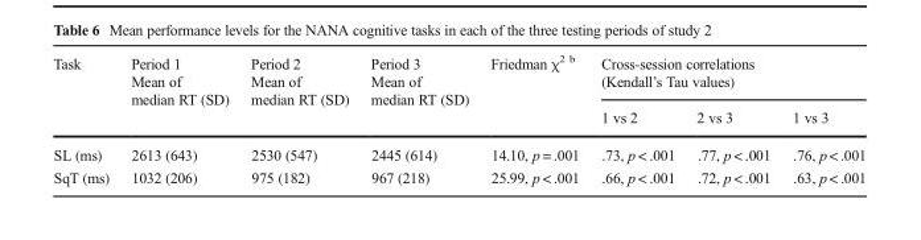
<table><thead><tr><td rowspan="3">Task</td><td rowspan="3">Period 1 Mean of median RT (SD)</td><td rowspan="3">Period 2 Mean of median RT (SD)</td><td rowspan="3">Period 3 Mean of median RT (SD)</td><td rowspan="3">Friedman χ<sup>2 b</sup></td><td rowspan="2" colspan="3">Cross-session correlations (Kendall’s Tau values)</td></tr><tr></tr><tr><td>1 vs 2</td><td>2 vs 3</td><td>1 vs 3</td></tr></thead><tbody><tr><td>SL (ms)</td><td>2613 (643)</td><td>2530 (547)</td><td>2445 (614)</td><td>14.10, p = .001</td><td>.73, p &lt; .001</td><td>.77, p &lt; .001</td><td>.76, p &lt; .001</td></tr><tr><td>SqT (ms)</td><td>1032 (206)</td><td>975 (182)</td><td>967 (218)</td><td>25.99, p &lt; .001</td><td>.66, p &lt; .001</td><td>.72, p &lt; .001</td><td>.63, p &lt; .001</td></tr></tbody></table>